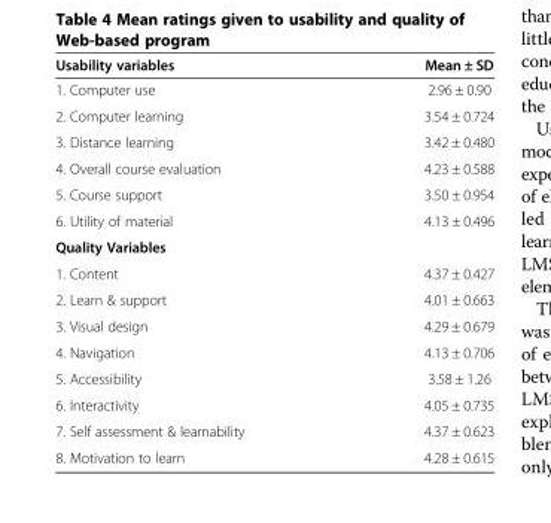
<table><thead><tr><td>Usability variables</td><td>Mean ± SD</td></tr></thead><tbody><tr><td>1. Computer use</td><td>2.96 ± 0.90</td></tr><tr><td>2. Computer learning</td><td>3.54 ± 0.724</td></tr><tr><td>3. Distance learning</td><td>3.42 ± 0.480</td></tr><tr><td>4. Overall course evaluation</td><td>4.23 ± 0.588</td></tr><tr><td>5. Course support</td><td>3.50 ± 0.954</td></tr><tr><td>6. Utility of material</td><td>4.13 ± 0.496</td></tr><tr><td colspan="2">Quality Variables</td></tr><tr><td>1. Content</td><td>4.37 ± 0.427</td></tr><tr><td>2. Learn &amp; support</td><td>4.01 ± 0.663</td></tr><tr><td>3. Visual design</td><td>4.29 ± 0.679</td></tr><tr><td>4. Navigation</td><td>4.13 ± 0.706</td></tr><tr><td>5. Accessibility</td><td>3.58 ± 1.26</td></tr><tr><td>6. Interactivity</td><td>4.05 ± 0.735</td></tr><tr><td>7. Self assessment &amp; learnability</td><td>4.37 ± 0.623</td></tr><tr><td>8. Motivation to learn</td><td>4.28 ± 0.615</td></tr></tbody></table>